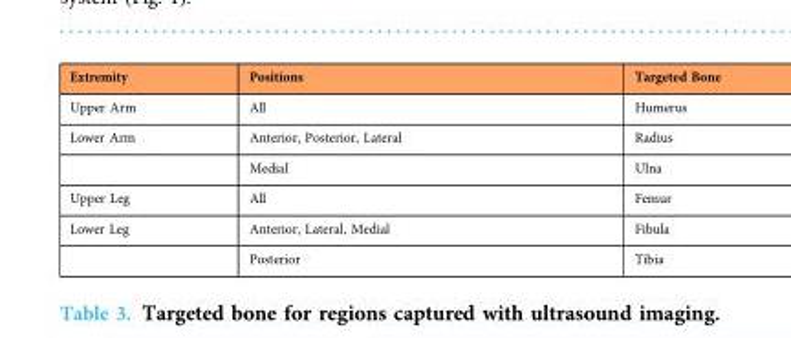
<table><thead><tr><td>Extremity</td><td>Positions</td><td>Targeted Bone</td></tr></thead><tbody><tr><td>Upper Arm</td><td>All</td><td>Humerus</td></tr><tr><td rowspan="2">Lower Arm</td><td>Anterior, Posterior, Lateral</td><td>Radius</td></tr><tr><td>Medial</td><td>Ulna</td></tr><tr><td>Upper Leg</td><td>All</td><td>Femur</td></tr><tr><td rowspan="2">Lower Leg</td><td>Anterior, Lateral, Medial</td><td>Fibula</td></tr><tr><td>Posterior</td><td>Tibia</td></tr></tbody></table>